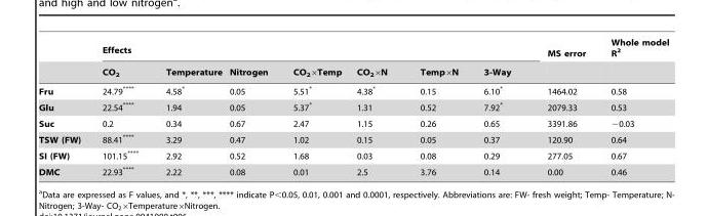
<table><thead><tr><td rowspan="2"></td><td colspan="7">Effects</td><td rowspan="2">MS error</td><td rowspan="2">Whole model R<sup>2</sup></td></tr><tr><td>CO<sub>2</sub></td><td>Temperature</td><td>Nitrogen</td><td>CO<sub>2</sub>×Temp</td><td>CO<sub>2</sub>×N</td><td>Temp×N</td><td>3-Way</td></tr></thead><tbody><tr><td>Fru</td><td>24.79****</td><td>4.58*</td><td>0.05</td><td>5.51*</td><td>4.38*</td><td>0.15</td><td>6.10*</td><td>1464.02</td><td>0.58</td></tr><tr><td>Glu</td><td>22.54****</td><td>1.94</td><td>0.05</td><td>5.37*</td><td>1.31</td><td>0.52</td><td>7.92*</td><td>2079.33</td><td>0.53</td></tr><tr><td>Suc</td><td>0.2</td><td>0.34</td><td>0.67</td><td>2.47</td><td>1.15</td><td>0.26</td><td>0.65</td><td>3391.86</td><td>−0.03</td></tr><tr><td>TSW (FW)</td><td>88.41****</td><td>3.29</td><td>0.47</td><td>1.02</td><td>0.15</td><td>0.05</td><td>0.37</td><td>120.90</td><td>0.64</td></tr><tr><td>SI (FW)</td><td>101.15****</td><td>2.92</td><td>0.52</td><td>1.68</td><td>0.03</td><td>0.08</td><td>0.29</td><td>277.05</td><td>0.67</td></tr><tr><td>DMC</td><td>22.93****</td><td>2.22</td><td>0.08</td><td>0.01</td><td>2.5</td><td>3.76</td><td>0.14</td><td>0.00</td><td>0.46</td></tr></tbody></table>